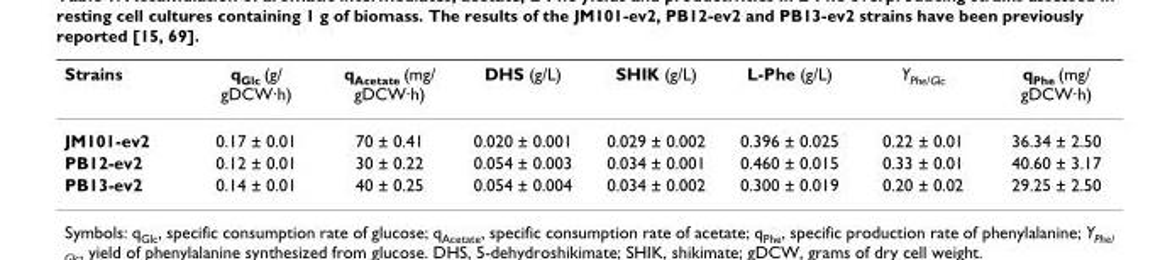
<table><thead><tr><td>Strains</td><td>q<sub>Glc</sub> (g/ gDCW·h)</td><td>q<sub>Acetate</sub> (mg/ gDCW·h)</td><td>DHS (g/L)</td><td>SHIK (g/L)</td><td>L-Phe (g/L)</td><td>Y<sub>Phe/Glc</sub></td><td>q<sub>Phe</sub> (mg/ gDCW·h)</td></tr></thead><tbody><tr><td>JM101-ev2</td><td>0.17 ± 0.01</td><td>70 ± 0.41</td><td>0.020 ± 0.001</td><td>0.029 ± 0.002</td><td>0.396 ± 0.025</td><td>0.22 ± 0.01</td><td>36.34 ± 2.50</td></tr><tr><td>PB12-ev2</td><td>0.12 ± 0.01</td><td>30 ± 0.22</td><td>0.054 ± 0.003</td><td>0.034 ± 0.001</td><td>0.460 ± 0.015</td><td>0.33 ± 0.01</td><td>40.60 ± 3.17</td></tr><tr><td>PB13-ev2</td><td>0.14 ± 0.01</td><td>40 ± 0.25</td><td>0.054 ± 0.004</td><td>0.034 ± 0.002</td><td>0.300 ± 0.019</td><td>0.20 ± 0.02</td><td>29.25 ± 2.50</td></tr></tbody></table>